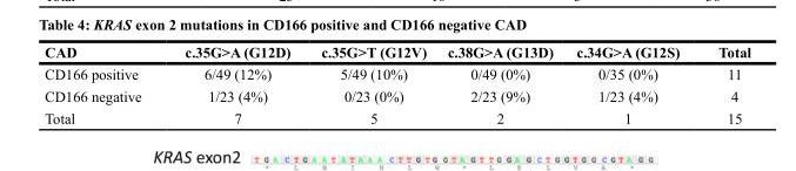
<table><thead><tr><td>CAD</td><td>c.35G&gt;A (G12D)</td><td>c.35G&gt;T (G12V)</td><td>c.38G&gt;A (G13D)</td><td>c.34G&gt;A (G12S)</td><td>Total</td></tr></thead><tbody><tr><td>CD166 positive</td><td>6/49 (12%)</td><td>5/49 (10%)</td><td>0/49 (0%)</td><td>0/35 (0%)</td><td>11</td></tr><tr><td>CD166 negative</td><td>1/23 (4%)</td><td>0/23 (0%)</td><td>2/23 (9%)</td><td>1/23 (4%)</td><td>4</td></tr><tr><td>Total</td><td>7</td><td>5</td><td>2</td><td>1</td><td>15</td></tr></tbody></table>